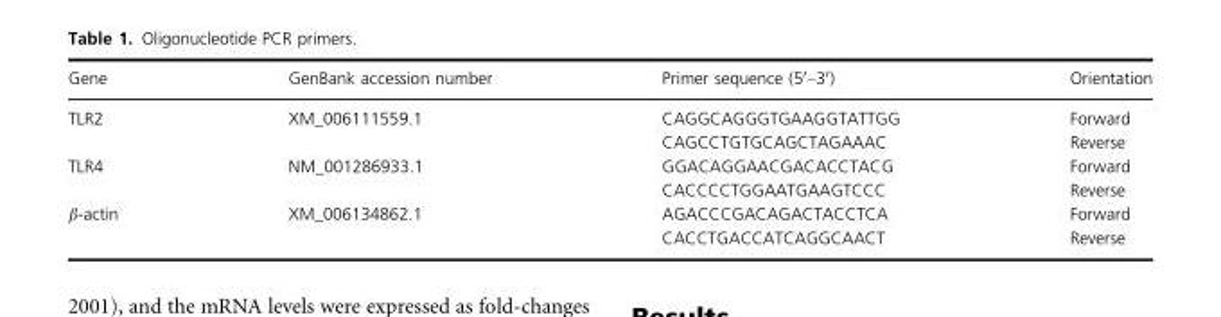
<table><thead><tr><td>Gene</td><td>GenBank accession number</td><td>Primer sequence (5′–3′)</td><td>Orientation</td></tr></thead><tbody><tr><td rowspan="2">TLR2</td><td rowspan="2">XM_006111559.1</td><td>CAGGCAGGGTGAAGGTATTGG</td><td>Forward</td></tr><tr><td>CAGCCTGTGCAGCTAGAAAC</td><td>Reverse</td></tr><tr><td rowspan="2">TLR4</td><td rowspan="2">NM_001286933.1</td><td>GGACAGGAACGACACCTACG</td><td>Forward</td></tr><tr><td>CACCCCTGGAATGAAGTCCC</td><td>Reverse</td></tr><tr><td rowspan="2">β-actin</td><td rowspan="2">XM_006134862.1</td><td>AGACCCGACAGACTACCTCA</td><td>Forward</td></tr><tr><td>CACCTGACCATCAGGCAACT</td><td>Reverse</td></tr></tbody></table>